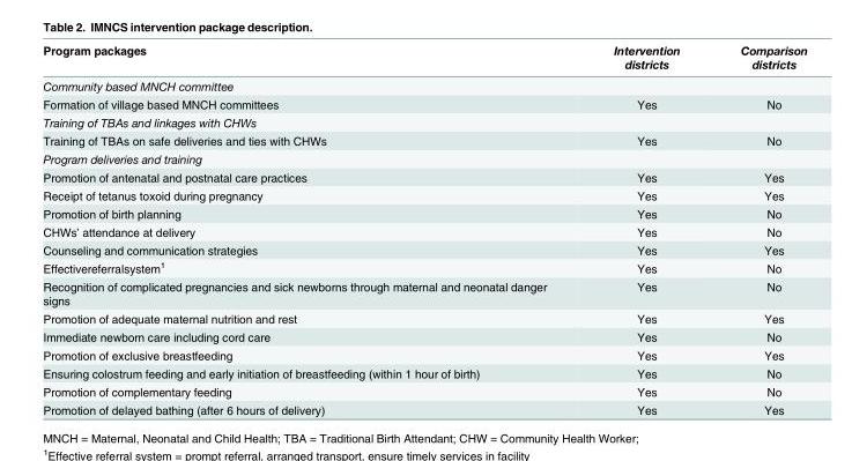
<table><thead><tr><td>Program packages</td><td>Intervention districts</td><td>Comparison districts</td></tr></thead><tbody><tr><td colspan="3">Community based MNCH committee</td></tr><tr><td>Formation of village based MNCH committees</td><td>Yes</td><td>No</td></tr><tr><td colspan="3">Training of TBAs and linkages with CHWs</td></tr><tr><td>Training of TBAs on safe deliveries and ties with CHWs</td><td>Yes</td><td>No</td></tr><tr><td colspan="3">Program deliveries and training</td></tr><tr><td>Promotion of antenatal and postnatal care practices</td><td>Yes</td><td>Yes</td></tr><tr><td>Receipt of tetanus toxoid during pregnancy</td><td>Yes</td><td>Yes</td></tr><tr><td>Promotion of birth planning</td><td>Yes</td><td>No</td></tr><tr><td>CHWs’ attendance at delivery</td><td>Yes</td><td>No</td></tr><tr><td>Counseling and communication strategies</td><td>Yes</td><td>Yes</td></tr><tr><td>Effectivereferralsystem<sup>1</sup></td><td>Yes</td><td>No</td></tr><tr><td>Recognition of complicated pregnancies and sick newborns through maternal and neonatal danger signs</td><td>Yes</td><td>No</td></tr><tr><td>Promotion of adequate maternal nutrition and rest</td><td>Yes</td><td>Yes</td></tr><tr><td>Immediate newborn care including cord care</td><td>Yes</td><td>No</td></tr><tr><td>Promotion of exclusive breastfeeding</td><td>Yes</td><td>Yes</td></tr><tr><td>Ensuring colostrum feeding and early initiation of breastfeeding (within 1 hour of birth)</td><td>Yes</td><td>No</td></tr><tr><td>Promotion of complementary feeding</td><td>Yes</td><td>No</td></tr><tr><td>Promotion of delayed bathing (after 6 hours of delivery)</td><td>Yes</td><td>Yes</td></tr></tbody></table>